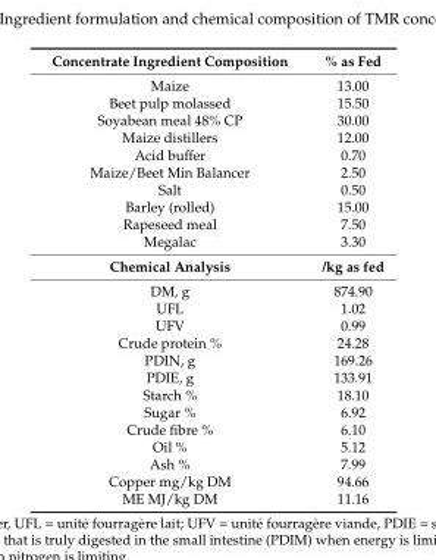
<table><tbody><tr><td>Concentrate Ingredient Composition</td><td>% as Fed</td></tr><tr><td>Maize</td><td>13.00</td></tr><tr><td>Beet pulp molassed</td><td>15.50</td></tr><tr><td>Soyabean meal 48% CP</td><td>30.00</td></tr><tr><td>Maize distillers</td><td>12.00</td></tr><tr><td>Acid buffer</td><td>0.70</td></tr><tr><td>Maize/Beet Min Balancer</td><td>2.50</td></tr><tr><td>Salt</td><td>0.50</td></tr><tr><td>Barley (rolled)</td><td>15.00</td></tr><tr><td>Rapeseed meal</td><td>7.50</td></tr><tr><td>Megalac</td><td>3.30</td></tr><tr><td>Chemical Analysis</td><td>/kg as fed</td></tr><tr><td>DM, g</td><td>874.90</td></tr><tr><td>UFL</td><td>1.02</td></tr><tr><td>UFV</td><td>0.99</td></tr><tr><td>Crude protein %</td><td>24.28</td></tr><tr><td>PDIN, g</td><td>169.26</td></tr><tr><td>PDIE, g</td><td>133.91</td></tr><tr><td>Starch %</td><td>18.10</td></tr><tr><td>Sugar %</td><td>6.92</td></tr><tr><td>Crude fibre %</td><td>6.10</td></tr><tr><td>Oil %</td><td>5.12</td></tr><tr><td>Ash %</td><td>7.99</td></tr><tr><td>Copper mg/kg DM</td><td>94.66</td></tr><tr><td>ME MJ/kg DM</td><td>11.16</td></tr></tbody></table>